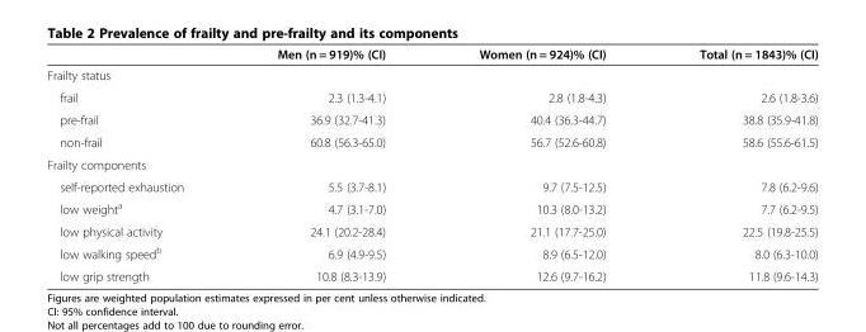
<table><thead><tr><td></td><td>Men (n = 919)% (CI)</td><td>Women (n = 924)% (CI)</td><td>Total (n = 1843)% (CI)</td></tr></thead><tbody><tr><td colspan="4">Frailty status</td></tr><tr><td>frail</td><td>2.3 (1.3-4.1)</td><td>2.8 (1.8-4.3)</td><td>2.6 (1.8-3.6)</td></tr><tr><td>pre-frail</td><td>36.9 (32.7-41.3)</td><td>40.4 (36.3-44.7)</td><td>38.8 (35.9-41.8)</td></tr><tr><td>non-frail</td><td>60.8 (56.3-65.0)</td><td>56.7 (52.6-60.8)</td><td>58.6 (55.6-61.5)</td></tr><tr><td colspan="4">Frailty components</td></tr><tr><td>self-reported exhaustion</td><td>5.5 (3.7-8.1)</td><td>9.7 (7.5-12.5)</td><td>7.8 (6.2-9.6)</td></tr><tr><td>low weight<sup>a</sup></td><td>4.7 (3.1-7.0)</td><td>10.3 (8.0-13.2)</td><td>7.7 (6.2-9.5)</td></tr><tr><td>low physical activity</td><td>24.1 (20.2-28.4)</td><td>21.1 (17.7-25.0)</td><td>22.5 (19.8-25.5)</td></tr><tr><td>low walking speed<sup>b</sup></td><td>6.9 (4.9-9.5)</td><td>8.9 (6.5-12.0)</td><td>8.0 (6.3-10.0)</td></tr><tr><td>low grip strength</td><td>10.8 (8.3-13.9)</td><td>12.6 (9.7-16.2)</td><td>11.8 (9.6-14.3)</td></tr></tbody></table>